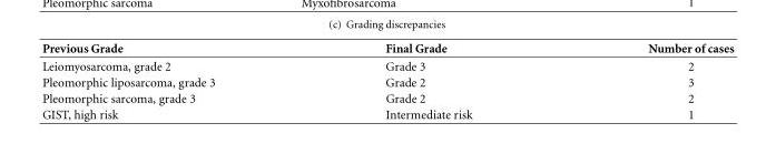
<table><thead><tr><td>Previous Grade</td><td>Final Grade</td><td>Number of cases</td></tr></thead><tbody><tr><td>Leiomyosarcoma, grade 2</td><td>Grade 3</td><td>2</td></tr><tr><td>Pleomorphic liposarcoma, grade 3</td><td>Grade 2</td><td>3</td></tr><tr><td>Pleomorphic sarcoma, grade 3</td><td>Grade 2</td><td>2</td></tr><tr><td>GIST, high risk</td><td>Intermediate risk</td><td>1</td></tr></tbody></table>